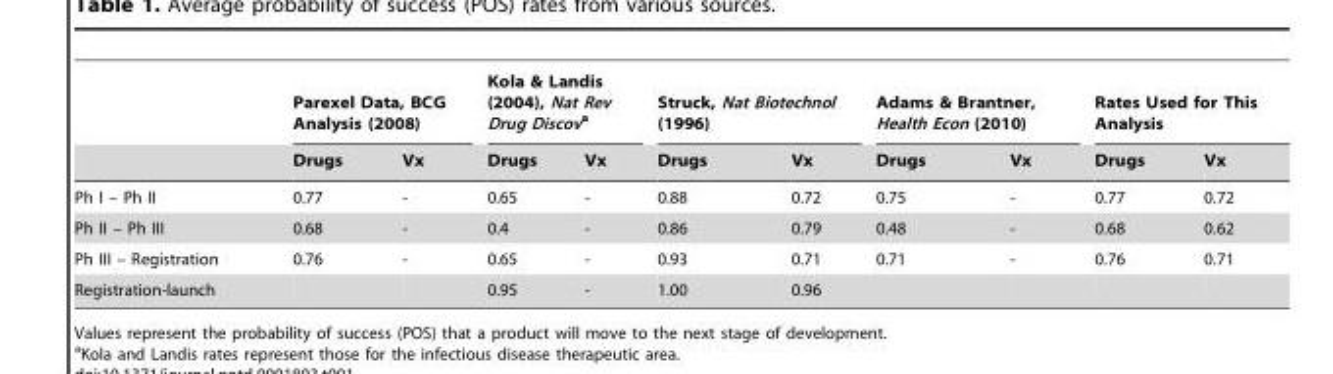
<table><thead><tr><td rowspan="2"></td><td colspan="2">Parexel Data, BCG Analysis (2008)</td><td colspan="2">Kola &amp; Landis (2004), Nat Rev Drug Discova</td><td colspan="2">Struck, Nat Biotechnol (1996)</td><td colspan="2">Adams &amp; Brantner, Health Econ (2010)</td><td colspan="2">Rates Used for This Analysis</td></tr><tr><td>Drugs</td><td>Vx</td><td>Drugs</td><td>Vx</td><td>Drugs</td><td>Vx</td><td>Drugs</td><td>Vx</td><td>Drugs</td><td>Vx</td></tr></thead><tbody><tr><td>Ph I – Ph II</td><td>0.77</td><td>-</td><td>0.65</td><td>-</td><td>0.88</td><td>0.72</td><td>0.75</td><td>-</td><td>0.77</td><td>0.72</td></tr><tr><td>Ph II – Ph III</td><td>0.68</td><td>-</td><td>0.4</td><td>-</td><td>0.86</td><td>0.79</td><td>0.48</td><td>-</td><td>0.68</td><td>0.62</td></tr><tr><td>Ph III – Registration</td><td>0.76</td><td>-</td><td>0.65</td><td>-</td><td>0.93</td><td>0.71</td><td>0.71</td><td>-</td><td>0.76</td><td>0.71</td></tr><tr><td>Registration-launch</td><td></td><td></td><td>0.95</td><td>-</td><td>1.00</td><td>0.96</td><td></td><td></td><td></td><td></td></tr></tbody></table>